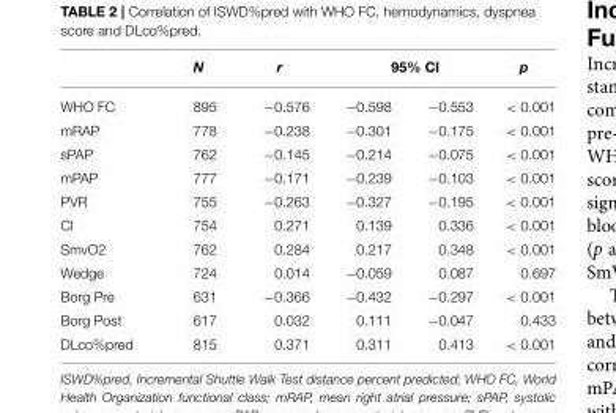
<table><thead><tr><td rowspan="2">WHO FC</td><td rowspan="2">N 895</td><td rowspan="2">r −0.576</td><td colspan="2">95% CI</td><td rowspan="2">p &lt; 0.001</td></tr><tr><td>−0.598</td><td>−0.553</td></tr></thead><tbody><tr><td>mRAP</td><td>778</td><td>−0.238</td><td>−0.301</td><td>−0.175</td><td>&lt; 0.001</td></tr><tr><td>sPAP</td><td>762</td><td>−0.145</td><td>−0.214</td><td>−0.075</td><td>&lt; 0.001</td></tr><tr><td>mPAP</td><td>777</td><td>−0.171</td><td>−0.239</td><td>−0.103</td><td>&lt; 0.001</td></tr><tr><td>PVR</td><td>755</td><td>−0.263</td><td>−0.327</td><td>−0.195</td><td>&lt; 0.001</td></tr><tr><td>CI</td><td>754</td><td>0.271</td><td>0.139</td><td>0.336</td><td>&lt; 0.001</td></tr><tr><td>SmvO2</td><td>762</td><td>0.284</td><td>0.217</td><td>0.348</td><td>&lt; 0.001</td></tr><tr><td>Wedge</td><td>724</td><td>0.014</td><td>−0.059</td><td>0.087</td><td>0.697</td></tr><tr><td>Borg Pre</td><td>631</td><td>−0.366</td><td>−0.432</td><td>−0.297</td><td>&lt; 0.001</td></tr><tr><td>Borg Post</td><td>617</td><td>0.032</td><td>0.111</td><td>−0.047</td><td>0.433</td></tr><tr><td>DLco%pred</td><td>815</td><td>0.371</td><td>0.311</td><td>0.413</td><td>&lt; 0.001</td></tr></tbody></table>